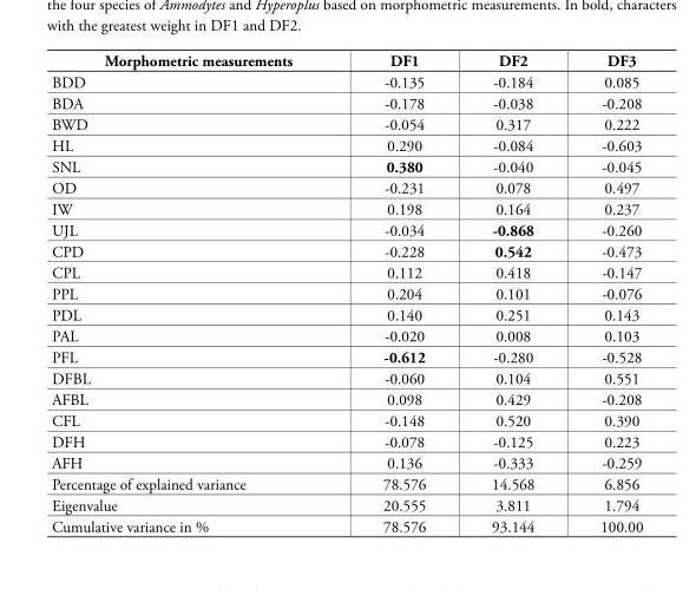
<table><thead><tr><td>Morphometric measurements</td><td>DF1</td><td>DF2</td><td>DF3</td></tr></thead><tbody><tr><td>BDD</td><td>-0.135</td><td>-0.184</td><td>0.085</td></tr><tr><td>BDA</td><td>-0.178</td><td>-0.038</td><td>-0.208</td></tr><tr><td>BWD</td><td>-0.054</td><td>0.317</td><td>0.222</td></tr><tr><td>HL</td><td>0.290</td><td>-0.084</td><td>-0.603</td></tr><tr><td>SNL</td><td>0.380</td><td>-0.040</td><td>-0.045</td></tr><tr><td>OD</td><td>-0.231</td><td>0.078</td><td>0.497</td></tr><tr><td>IW</td><td>0.198</td><td>0.164</td><td>0.237</td></tr><tr><td>UJL</td><td>-0.034</td><td>-0.868</td><td>-0.260</td></tr><tr><td>CPD</td><td>-0.228</td><td>0.542</td><td>-0.473</td></tr><tr><td>CPL</td><td>0.112</td><td>0.418</td><td>-0.147</td></tr><tr><td>PPL</td><td>0.204</td><td>0.101</td><td>-0.076</td></tr><tr><td>PDL</td><td>0.140</td><td>0.251</td><td>0.143</td></tr><tr><td>PAL</td><td>-0.020</td><td>0.008</td><td>0.103</td></tr><tr><td>PFL</td><td>-0.612</td><td>-0.280</td><td>-0.528</td></tr><tr><td>DFBL</td><td>-0.060</td><td>0.104</td><td>0.551</td></tr><tr><td>AFBL</td><td>0.098</td><td>0.429</td><td>-0.208</td></tr><tr><td>CFL</td><td>-0.148</td><td>0.520</td><td>0.390</td></tr><tr><td>DFH</td><td>-0.078</td><td>-0.125</td><td>0.223</td></tr><tr><td>AFH</td><td>0.136</td><td>-0.333</td><td>-0.259</td></tr><tr><td>Percentage of explained variance</td><td>78.576</td><td>14.568</td><td>6.856</td></tr><tr><td>Eigenvalue</td><td>20.555</td><td>3.811</td><td>1.794</td></tr><tr><td>Cumulative variance in %</td><td>78.576</td><td>93.144</td><td>100.00</td></tr></tbody></table>